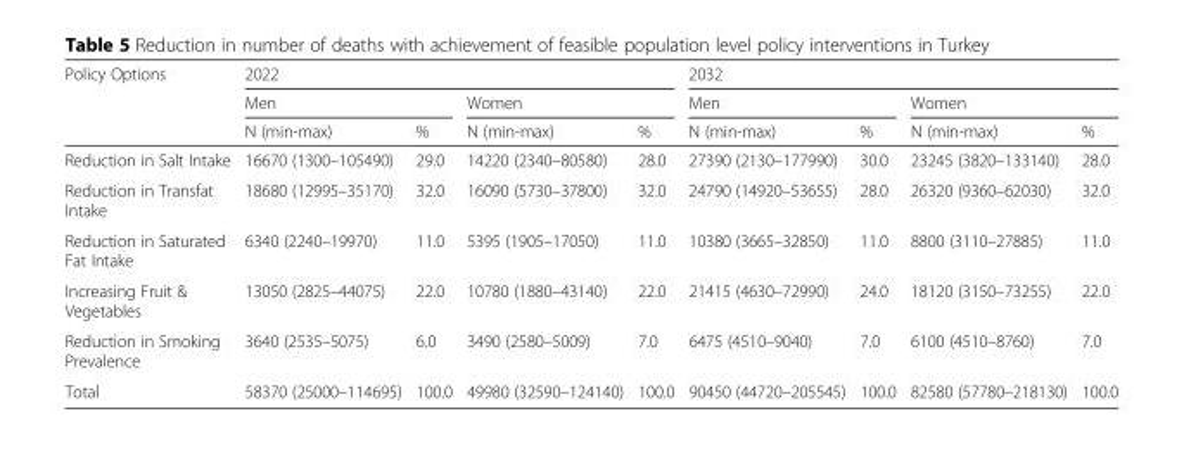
<table><thead><tr><td rowspan="3">Policy Options</td><td colspan="4">2022</td><td colspan="4">2032</td></tr><tr><td colspan="2">Men</td><td colspan="2">Women</td><td colspan="2">Men</td><td colspan="2">Women</td></tr><tr><td>N (min-max)</td><td>%</td><td>N (min-max)</td><td>%</td><td>N (min-max)</td><td>%</td><td>N (min-max)</td><td>%</td></tr></thead><tbody><tr><td>Reduction in Salt Intake</td><td>16670 (1300–105490)</td><td>29.0</td><td>14220 (2340–80580)</td><td>28.0</td><td>27390 (2130–177990)</td><td>30.0</td><td>23245 (3820–133140)</td><td>28.0</td></tr><tr><td>Reduction in Transfat Intake</td><td>18680 (12995–35170)</td><td>32.0</td><td>16090 (5730–37800)</td><td>32.0</td><td>24790 (14920–53655)</td><td>28.0</td><td>26320 (9360–62030)</td><td>32.0</td></tr><tr><td>Reduction in Saturated Fat Intake</td><td>6340 (2240–19970)</td><td>11.0</td><td>5395 (1905–17050)</td><td>11.0</td><td>10380 (3665–32850)</td><td>11.0</td><td>8800 (3110–27885)</td><td>11.0</td></tr><tr><td>Increasing Fruit &amp; Vegetables</td><td>13050 (2825–44075)</td><td>22.0</td><td>10780 (1880–43140)</td><td>22.0</td><td>21415 (4630–72990)</td><td>24.0</td><td>18120 (3150–73255)</td><td>22.0</td></tr><tr><td>Reduction in Smoking Prevalence</td><td>3640 (2535–5075)</td><td>6.0</td><td>3490 (2580–5009)</td><td>7.0</td><td>6475 (4510–9040)</td><td>7.0</td><td>6100 (4510–8760)</td><td>7.0</td></tr><tr><td>Total</td><td>58370 (25000–114695)</td><td>100.0</td><td>49980 (32590–124140)</td><td>100.0</td><td>90450 (44720–205545)</td><td>100.0</td><td>82580 (57780–218130)</td><td>100.0</td></tr></tbody></table>